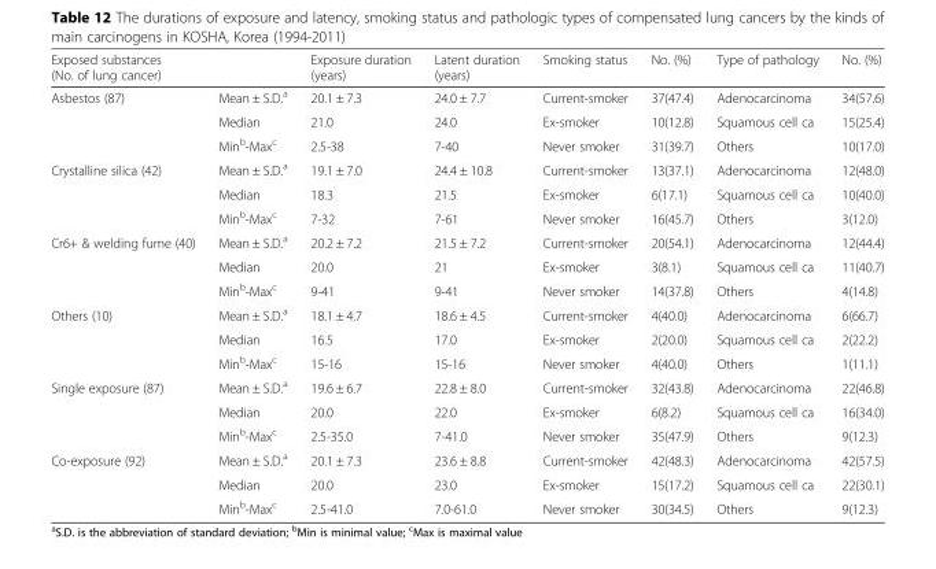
<table><thead><tr><td>Exposed substances (No. of lung cancer)</td><td></td><td>Exposure duration (years)</td><td>Latent duration (years)</td><td>Smoking status</td><td>No. (%)</td><td>Type of pathology</td><td>No. (%)</td></tr></thead><tbody><tr><td rowspan="3">Asbestos (87)</td><td>Mean ± S.D.<sup>a</sup></td><td>20.1 ± 7.3</td><td>24.0 ± 7.7</td><td>Current-smoker</td><td>37(47.4)</td><td>Adenocarcinoma</td><td>34(57.6)</td></tr><tr><td>Median</td><td>21.0</td><td>24.0</td><td>Ex-smoker</td><td>10(12.8)</td><td>Squamous cell ca</td><td>15(25.4)</td></tr><tr><td>Min<sup>b</sup>-Max<sup>c</sup></td><td>2.5-38</td><td>7-40</td><td>Never smoker</td><td>31(39.7)</td><td>Others</td><td>10(17.0)</td></tr><tr><td rowspan="3">Crystalline silica (42)</td><td>Mean ± S.D.<sup>a</sup></td><td>19.1 ± 7.0</td><td>24.4 ± 10.8</td><td>Current-smoker</td><td>13(37.1)</td><td>Adenocarcinoma</td><td>12(48.0)</td></tr><tr><td>Median</td><td>18.3</td><td>21.5</td><td>Ex-smoker</td><td>6(17.1)</td><td>Squamous cell ca</td><td>10(40.0)</td></tr><tr><td>Min<sup>b</sup>-Max<sup>c</sup></td><td>7-32</td><td>7-61</td><td>Never smoker</td><td>16(45.7)</td><td>Others</td><td>3(12.0)</td></tr><tr><td rowspan="3">Cr6+ &amp; welding fume (40)</td><td>Mean ± S.D.<sup>a</sup></td><td>20.2 ± 7.2</td><td>21.5 ± 7.2</td><td>Current-smoker</td><td>20(54.1)</td><td>Adenocarcinoma</td><td>12(44.4)</td></tr><tr><td>Median</td><td>20.0</td><td>21</td><td>Ex-smoker</td><td>3(8.1)</td><td>Squamous cell ca</td><td>11(40.7)</td></tr><tr><td>Min<sup>b</sup>-Max<sup>c</sup></td><td>9-41</td><td>9-41</td><td>Never smoker</td><td>14(37.8)</td><td>Others</td><td>4(14.8)</td></tr><tr><td rowspan="3">Others (10)</td><td>Mean ± S.D.<sup>a</sup></td><td>18.1 ± 4.7</td><td>18.6 ± 4.5</td><td>Current-smoker</td><td>4(40.0)</td><td>Adenocarcinoma</td><td>6(66.7)</td></tr><tr><td>Median</td><td>16.5</td><td>17.0</td><td>Ex-smoker</td><td>2(20.0)</td><td>Squamous cell ca</td><td>2(22.2)</td></tr><tr><td>Min<sup>b</sup>-Max<sup>c</sup></td><td>15-16</td><td>15-16</td><td>Never smoker</td><td>4(40.0)</td><td>Others</td><td>1(11.1)</td></tr><tr><td rowspan="3">Single exposure (87)</td><td>Mean ± S.D.<sup>a</sup></td><td>19.6 ± 6.7</td><td>22.8 ± 8.0</td><td>Current-smoker</td><td>32(43.8)</td><td>Adenocarcinoma</td><td>22(46.8)</td></tr><tr><td>Median</td><td>20.0</td><td>22.0</td><td>Ex-smoker</td><td>6(8.2)</td><td>Squamous cell ca</td><td>16(34.0)</td></tr><tr><td>Min<sup>b</sup>-Max<sup>c</sup></td><td>2.5-35.0</td><td>7-41.0</td><td>Never smoker</td><td>35(47.9)</td><td>Others</td><td>9(12.3)</td></tr><tr><td rowspan="3">Co-exposure (92)</td><td>Mean ± S.D.<sup>a</sup></td><td>20.1 ± 7.3</td><td>23.6 ± 8.8</td><td>Current-smoker</td><td>42(48.3)</td><td>Adenocarcinoma</td><td>42(57.5)</td></tr><tr><td>Median</td><td>20.0</td><td>23.0</td><td>Ex-smoker</td><td>15(17.2)</td><td>Squamous cell ca</td><td>22(30.1)</td></tr><tr><td>Min<sup>b</sup>-Max<sup>c</sup></td><td>2.5-41.0</td><td>7.0-61.0</td><td>Never smoker</td><td>30(34.5)</td><td>Others</td><td>9(12.3)</td></tr></tbody></table>